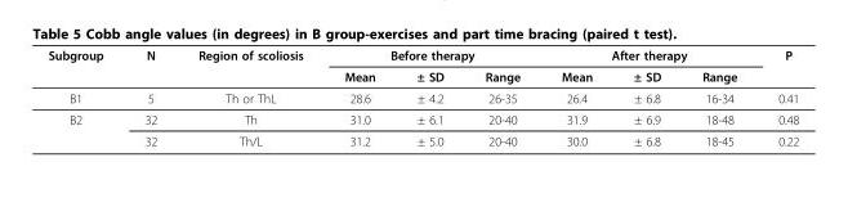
<table><thead><tr><td rowspan="2">Subgroup</td><td rowspan="2">N</td><td rowspan="2">Region of scoliosis</td><td colspan="3">Before therapy</td><td colspan="3">After therapy</td><td rowspan="2">P</td></tr><tr><td>Mean</td><td>± SD</td><td>Range</td><td>Mean</td><td>± SD</td><td>Range</td></tr></thead><tbody><tr><td>B1</td><td>5</td><td>Th or ThL</td><td>28.6</td><td>± 4.2</td><td>26-35</td><td>26.4</td><td>± 6.8</td><td>16-34</td><td>0.41</td></tr><tr><td rowspan="2">B2</td><td>32</td><td>Th</td><td>31.0</td><td>± 6.1</td><td>20-40</td><td>31.9</td><td>± 6.9</td><td>18-48</td><td>0.48</td></tr><tr><td>32</td><td>Th/L</td><td>31.2</td><td>± 5.0</td><td>20-40</td><td>30.0</td><td>± 6.8</td><td>18-45</td><td>0.22</td></tr></tbody></table>